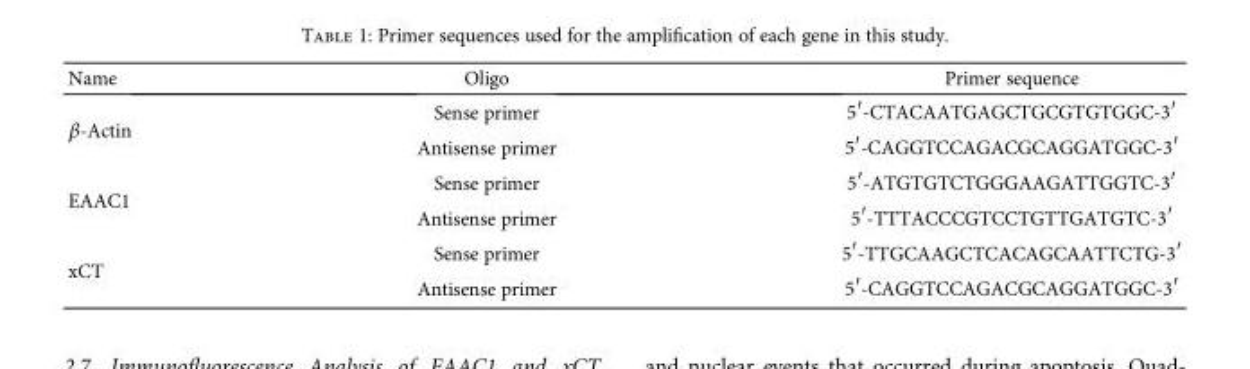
<table><thead><tr><td>Name</td><td>Oligo</td><td>Primer sequence</td></tr></thead><tbody><tr><td rowspan="2">β-Actin</td><td>Sense primer</td><td>5′-CTACAATGAGCTGCGTGTGGC-3′</td></tr><tr><td>Antisense primer</td><td>5′-CAGGTCCAGACGCAGGATGGC-3′</td></tr><tr><td rowspan="2">EAAC1</td><td>Sense primer</td><td>5′-ATGTGTCTGGGAAGATTGGTC-3′</td></tr><tr><td>Antisense primer</td><td>5′-TTTACCCGTCCTGTTGATGTC-3′</td></tr><tr><td rowspan="2">xCT</td><td>Sense primer</td><td>5′-TTGCAAGCTCACAGCAATTCTG-3′</td></tr><tr><td>Antisense primer</td><td>5′-CAGGTCCAGACGCAGGATGGC-3′</td></tr></tbody></table>